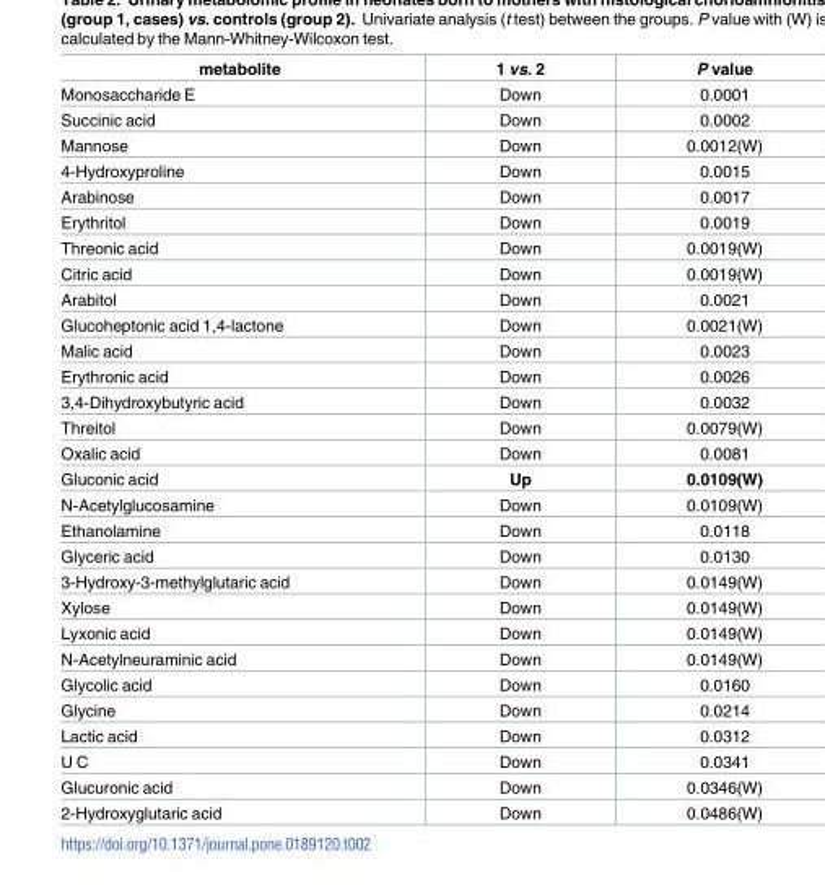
<table><thead><tr><td>metabolite</td><td>1 vs. 2</td><td>P value</td></tr></thead><tbody><tr><td>Monosaccharide E</td><td>Down</td><td>0.0001</td></tr><tr><td>Succinic acid</td><td>Down</td><td>0.0002</td></tr><tr><td>Mannose</td><td>Down</td><td>0.0012(W)</td></tr><tr><td>4-Hydroxyproline</td><td>Down</td><td>0.0015</td></tr><tr><td>Arabinose</td><td>Down</td><td>0.0017</td></tr><tr><td>Erythritol</td><td>Down</td><td>0.0019</td></tr><tr><td>Threonic acid</td><td>Down</td><td>0.0019(W)</td></tr><tr><td>Citric acid</td><td>Down</td><td>0.0019(W)</td></tr><tr><td>Arabitol</td><td>Down</td><td>0.0021</td></tr><tr><td>Glucoheptonic acid 1,4-lactone</td><td>Down</td><td>0.0021(W)</td></tr><tr><td>Malic acid</td><td>Down</td><td>0.0023</td></tr><tr><td>Erythronic acid</td><td>Down</td><td>0.0026</td></tr><tr><td>3,4-Dihydroxybutyric acid</td><td>Down</td><td>0.0032</td></tr><tr><td>Threitol</td><td>Down</td><td>0.0079(W)</td></tr><tr><td>Oxalic acid</td><td>Down</td><td>0.0081</td></tr><tr><td>Gluconic acid</td><td>Up</td><td>0.0109(W)</td></tr><tr><td>N-Acetylglucosamine</td><td>Down</td><td>0.0109(W)</td></tr><tr><td>Ethanolamine</td><td>Down</td><td>0.0118</td></tr><tr><td>Glyceric acid</td><td>Down</td><td>0.0130</td></tr><tr><td>3-Hydroxy-3-methylglutaric acid</td><td>Down</td><td>0.0149(W)</td></tr><tr><td>Xylose</td><td>Down</td><td>0.0149(W)</td></tr><tr><td>Lyxonic acid</td><td>Down</td><td>0.0149(W)</td></tr><tr><td>N-Acetylneuraminic acid</td><td>Down</td><td>0.0149(W)</td></tr><tr><td>Glycolic acid</td><td>Down</td><td>0.0160</td></tr><tr><td>Glycine</td><td>Down</td><td>0.0214</td></tr><tr><td>Lactic acid</td><td>Down</td><td>0.0312</td></tr><tr><td>U C</td><td>Down</td><td>0.0341</td></tr><tr><td>Glucuronic acid</td><td>Down</td><td>0.0346(W)</td></tr><tr><td>2-Hydroxyglutaric acid</td><td>Down</td><td>0.0486(W)</td></tr></tbody></table>